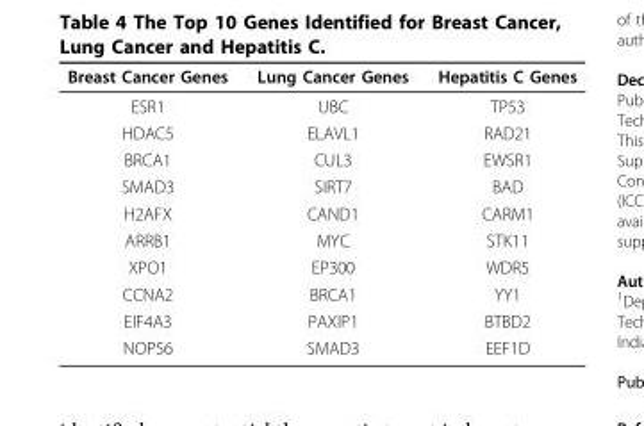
<table><thead><tr><td>Breast Cancer Genes</td><td>Lung Cancer Genes</td><td>Hepatitis C Genes</td></tr></thead><tbody><tr><td>ESR1</td><td>UBC</td><td>TP53</td></tr><tr><td>HDAC5</td><td>ELAVL1</td><td>RAD21</td></tr><tr><td>BRCA1</td><td>CUL3</td><td>EWSR1</td></tr><tr><td>SMAD3</td><td>SIRT7</td><td>BAD</td></tr><tr><td>H2AFX</td><td>CAND1</td><td>CARM1</td></tr><tr><td>ARRB1</td><td>MYC</td><td>STK11</td></tr><tr><td>XPO1</td><td>EP300</td><td>WDR5</td></tr><tr><td>CCNA2</td><td>BRCA1</td><td>YY1</td></tr><tr><td>EIF4A3</td><td>PAXIP1</td><td>BTBD2</td></tr><tr><td>NOP56</td><td>SMAD3</td><td>EEF1D</td></tr></tbody></table>